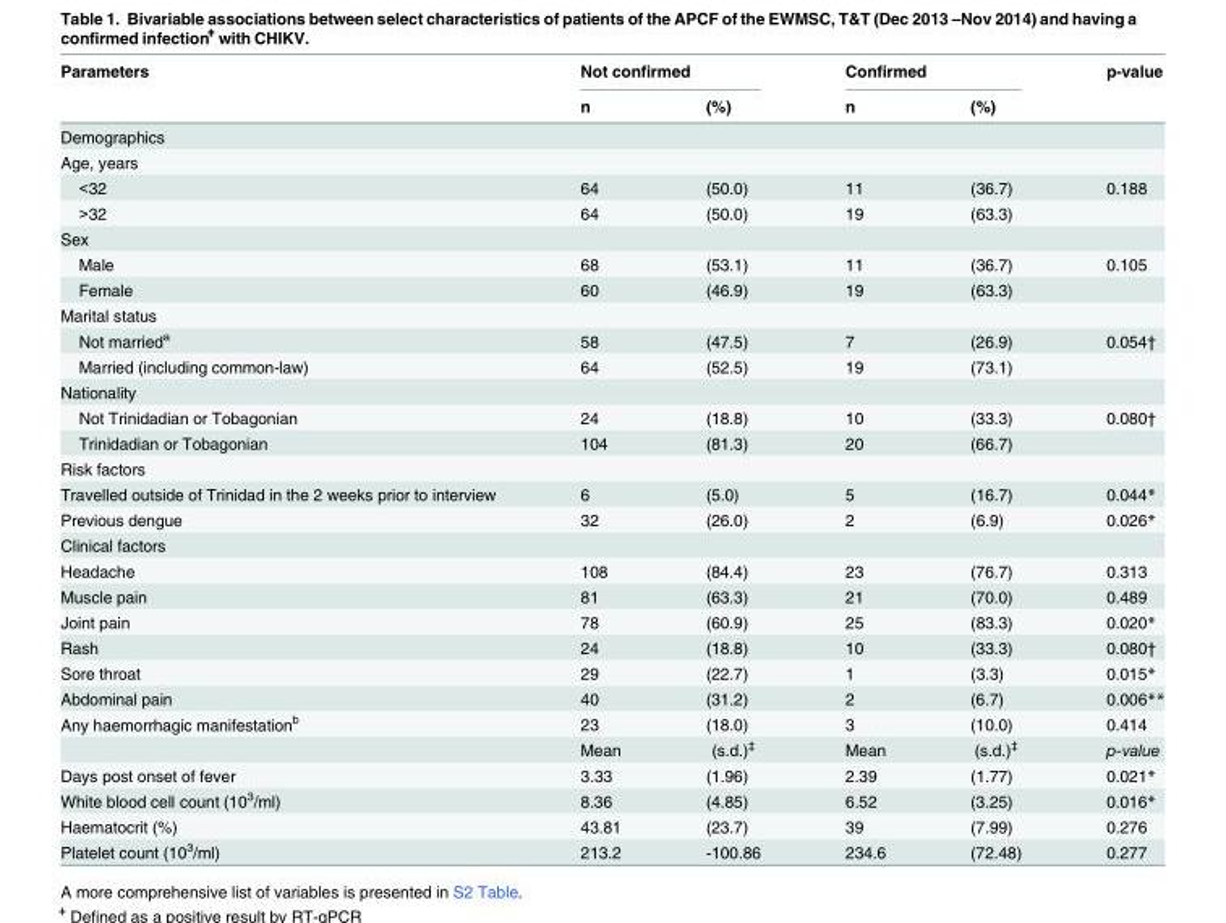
<table><thead><tr><td rowspan="2">Parameters</td><td colspan="2">Not confirmed</td><td colspan="2">Confirmed</td><td rowspan="2">p-value</td></tr><tr><td>n</td><td>(%)</td><td>n</td><td>(%)</td></tr></thead><tbody><tr><td colspan="6">Demographics</td></tr><tr><td colspan="6">Age, years</td></tr><tr><td>&lt;32</td><td>64</td><td>(50.0)</td><td>11</td><td>(36.7)</td><td>0.188</td></tr><tr><td>&gt;32</td><td>64</td><td>(50.0)</td><td>19</td><td>(63.3)</td><td></td></tr><tr><td colspan="6">Sex</td></tr><tr><td>Male</td><td>68</td><td>(53.1)</td><td>11</td><td>(36.7)</td><td>0.105</td></tr><tr><td>Female</td><td>60</td><td>(46.9)</td><td>19</td><td>(63.3)</td><td></td></tr><tr><td colspan="6">Marital status</td></tr><tr><td>Not married<sup>a</sup></td><td>58</td><td>(47.5)</td><td>7</td><td>(26.9)</td><td>0.054†</td></tr><tr><td>Married (including common-law)</td><td>64</td><td>(52.5)</td><td>19</td><td>(73.1)</td><td></td></tr><tr><td colspan="6">Nationality</td></tr><tr><td>Not Trinidadian or Tobagonian</td><td>24</td><td>(18.8)</td><td>10</td><td>(33.3)</td><td>0.080†</td></tr><tr><td>Trinidadian or Tobagonian</td><td>104</td><td>(81.3)</td><td>20</td><td>(66.7)</td><td></td></tr><tr><td colspan="6">Risk factors</td></tr><tr><td>Travelled outside of Trinidad in the 2 weeks prior to interview</td><td>6</td><td>(5.0)</td><td>5</td><td>(16.7)</td><td>0.044*</td></tr><tr><td>Previous dengue</td><td>32</td><td>(26.0)</td><td>2</td><td>(6.9)</td><td>0.026*</td></tr><tr><td colspan="6">Clinical factors</td></tr><tr><td>Headache</td><td>108</td><td>(84.4)</td><td>23</td><td>(76.7)</td><td>0.313</td></tr><tr><td>Muscle pain</td><td>81</td><td>(63.3)</td><td>21</td><td>(70.0)</td><td>0.489</td></tr><tr><td>Joint pain</td><td>78</td><td>(60.9)</td><td>25</td><td>(83.3)</td><td>0.020*</td></tr><tr><td>Rash</td><td>24</td><td>(18.8)</td><td>10</td><td>(33.3)</td><td>0.080†</td></tr><tr><td>Sore throat</td><td>29</td><td>(22.7)</td><td>1</td><td>(3.3)</td><td>0.015*</td></tr><tr><td>Abdominal pain</td><td>40</td><td>(31.2)</td><td>2</td><td>(6.7)</td><td>0.006**</td></tr><tr><td rowspan="2">Any haemorrhagic manifestation<sup>b</sup></td><td>23</td><td>(18.0)</td><td>3</td><td>(10.0)</td><td>0.414</td></tr><tr><td>Mean</td><td>(s.d.)<sup>‡</sup></td><td>Mean</td><td>(s.d.)<sup>‡</sup></td><td>p-value</td></tr><tr><td>Days post onset of fever</td><td>3.33</td><td>(1.96)</td><td>2.39</td><td>(1.77)</td><td>0.021*</td></tr><tr><td>White blood cell count (10<sup>3</sup>/ml)</td><td>8.36</td><td>(4.85)</td><td>6.52</td><td>(3.25)</td><td>0.016*</td></tr><tr><td>Haematocrit (%)</td><td>43.81</td><td>(23.7)</td><td>39</td><td>(7.99)</td><td>0.276</td></tr><tr><td>Platelet count (10<sup>3</sup>/ml)</td><td>213.2</td><td>-100.86</td><td>234.6</td><td>(72.48)</td><td>0.277</td></tr></tbody></table>